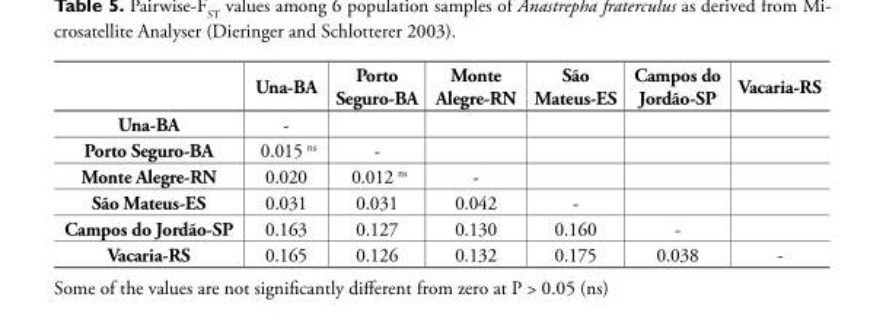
<table><thead><tr><td></td><td>Una-BA</td><td>Porto Seguro-BA</td><td>Monte Alegre-RN</td><td>São Mateus-ES</td><td>Campos do Jordão-SP</td><td>Vacaria-RS</td></tr></thead><tbody><tr><td>Una-BA</td><td>-</td><td></td><td></td><td></td><td></td><td></td></tr><tr><td>Porto Seguro-BA</td><td>0.015 <sup>ns</sup></td><td>-</td><td></td><td></td><td></td><td></td></tr><tr><td>Monte Alegre-RN</td><td>0.020</td><td>0.012 <sup>ns</sup></td><td>-</td><td></td><td></td><td></td></tr><tr><td>São Mateus-ES</td><td>0.031</td><td>0.031</td><td>0.042</td><td>-</td><td></td><td></td></tr><tr><td>Campos do Jordão-SP</td><td>0.163</td><td>0.127</td><td>0.130</td><td>0.160</td><td>-</td><td></td></tr><tr><td>Vacaria-RS</td><td>0.165</td><td>0.126</td><td>0.132</td><td>0.175</td><td>0.038</td><td>-</td></tr></tbody></table>